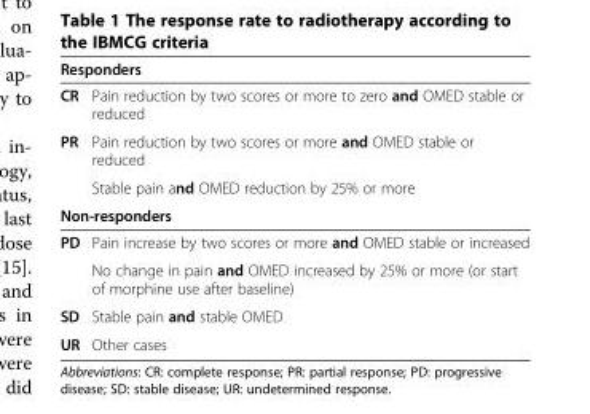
<table><thead><tr><td colspan="2">Responders</td></tr><tr><td>CR</td><td>Pain reduction by two scores or more to zero and OMED stable or reduced</td></tr></thead><tbody><tr><td rowspan="2">PR</td><td>Pain reduction by two scores or more and OMED stable or reduced</td></tr><tr><td>Stable pain and OMED reduction by 25% or more</td></tr><tr><td colspan="2">Non-responders</td></tr><tr><td rowspan="2">PD</td><td>Pain increase by two scores or more and OMED stable or increased</td></tr><tr><td>No change in pain and OMED increased by 25% or more (or start of morphine use after baseline)</td></tr><tr><td>SD</td><td>Stable pain and stable OMED</td></tr><tr><td>UR</td><td>Other cases</td></tr></tbody></table>